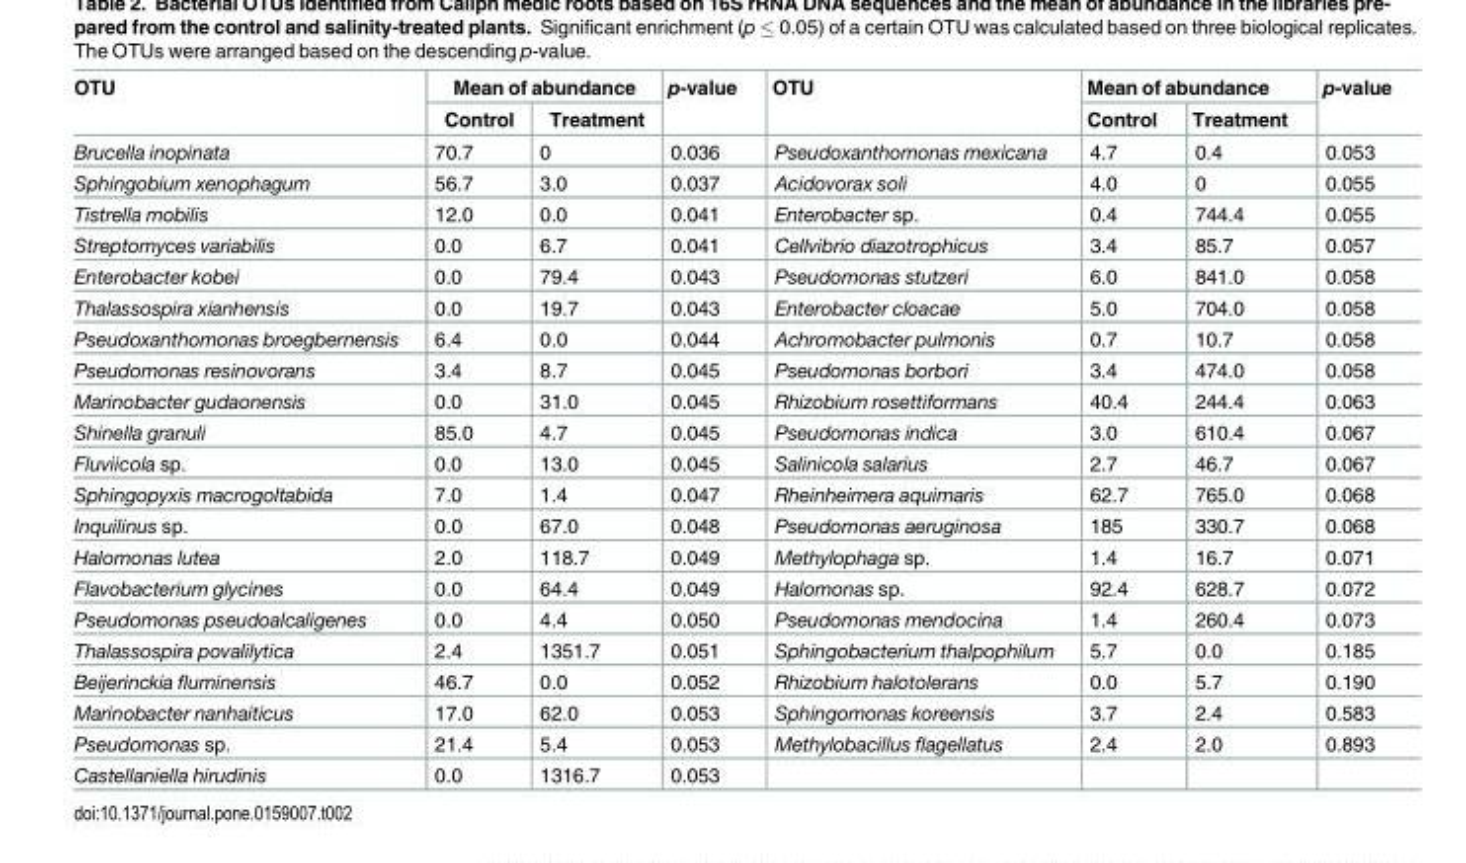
<table><thead><tr><td rowspan="2">OTU</td><td colspan="2">Mean of abundance</td><td rowspan="2">p-value</td><td rowspan="2">OTU</td><td colspan="2">Mean of abundance</td><td rowspan="2">p-value</td></tr><tr><td>Control</td><td>Treatment</td><td>Control</td><td>Treatment</td></tr></thead><tbody><tr><td>Brucella inopinata</td><td>70.7</td><td>0</td><td>0.036</td><td>Pseudoxanthomonas mexicana</td><td>4.7</td><td>0.4</td><td>0.053</td></tr><tr><td>Sphingobium xenophagum</td><td>56.7</td><td>3.0</td><td>0.037</td><td>Acidovorax soli</td><td>4.0</td><td>0</td><td>0.055</td></tr><tr><td>Tistrella mobilis</td><td>12.0</td><td>0.0</td><td>0.041</td><td>Enterobacter sp.</td><td>0.4</td><td>744.4</td><td>0.055</td></tr><tr><td>Streptomyces variabilis</td><td>0.0</td><td>6.7</td><td>0.041</td><td>Cellvibrio diazotrophicus</td><td>3.4</td><td>85.7</td><td>0.057</td></tr><tr><td>Enterobacter kobei</td><td>0.0</td><td>79.4</td><td>0.043</td><td>Pseudomonas stutzeri</td><td>6.0</td><td>841.0</td><td>0.058</td></tr><tr><td>Thalassospira xianhensis</td><td>0.0</td><td>19.7</td><td>0.043</td><td>Enterobacter cloacae</td><td>5.0</td><td>704.0</td><td>0.058</td></tr><tr><td>Pseudoxanthomonas broegbernensis</td><td>6.4</td><td>0.0</td><td>0.044</td><td>Achromobacter pulmonis</td><td>0.7</td><td>10.7</td><td>0.058</td></tr><tr><td>Pseudomonas resinovorans</td><td>3.4</td><td>8.7</td><td>0.045</td><td>Pseudomonas borbori</td><td>3.4</td><td>474.0</td><td>0.058</td></tr><tr><td>Marinobacter gudaonensis</td><td>0.0</td><td>31.0</td><td>0.045</td><td>Rhizobium rosettiformans</td><td>40.4</td><td>244.4</td><td>0.063</td></tr><tr><td>Shinella granuli</td><td>85.0</td><td>4.7</td><td>0.045</td><td>Pseudomonas indica</td><td>3.0</td><td>610.4</td><td>0.067</td></tr><tr><td>Fluviicola sp.</td><td>0.0</td><td>13.0</td><td>0.045</td><td>Salinicola salarius</td><td>2.7</td><td>46.7</td><td>0.067</td></tr><tr><td>Sphingopyxis macrogoltabida</td><td>7.0</td><td>1.4</td><td>0.047</td><td>Rheinheimera aquimaris</td><td>62.7</td><td>765.0</td><td>0.068</td></tr><tr><td>Inquilinus sp.</td><td>0.0</td><td>67.0</td><td>0.048</td><td>Pseudomonas aeruginosa</td><td>185</td><td>330.7</td><td>0.068</td></tr><tr><td>Halomonas lutea</td><td>2.0</td><td>118.7</td><td>0.049</td><td>Methylophaga sp.</td><td>1.4</td><td>16.7</td><td>0.071</td></tr><tr><td>Flavobacterium glycines</td><td>0.0</td><td>64.4</td><td>0.049</td><td>Halomonas sp.</td><td>92.4</td><td>628.7</td><td>0.072</td></tr><tr><td>Pseudomonas pseudoalcaligenes</td><td>0.0</td><td>4.4</td><td>0.050</td><td>Pseudomonas mendocina</td><td>1.4</td><td>260.4</td><td>0.073</td></tr><tr><td>Thalassospira povalilytica</td><td>2.4</td><td>1351.7</td><td>0.051</td><td>Sphingobacterium thalpophilum</td><td>5.7</td><td>0.0</td><td>0.185</td></tr><tr><td>Beijerinckia fluminensis</td><td>46.7</td><td>0.0</td><td>0.052</td><td>Rhizobium halotolerans</td><td>0.0</td><td>5.7</td><td>0.190</td></tr><tr><td>Marinobacter nanhaiticus</td><td>17.0</td><td>62.0</td><td>0.053</td><td>Sphingomonas koreensis</td><td>3.7</td><td>2.4</td><td>0.583</td></tr><tr><td>Pseudomonas sp.</td><td>21.4</td><td>5.4</td><td>0.053</td><td>Methylobacillus flagellatus</td><td>2.4</td><td>2.0</td><td>0.893</td></tr><tr><td>Castellaniella hirudinis</td><td>0.0</td><td>1316.7</td><td>0.053</td><td></td><td></td><td></td><td></td></tr></tbody></table>